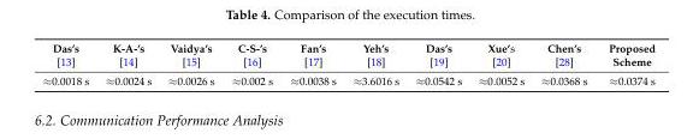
<table><thead><tr><td>Das’s [13]</td><td>K-A-’s [14]</td><td>Vaidya’s [15]</td><td>C-S-’s [16]</td><td>Fan’s [17]</td><td>Yeh’s [18]</td><td>Das’s [19]</td><td>Xue’s [20]</td><td>Chen’s [28]</td><td>Proposed Scheme</td></tr></thead><tbody><tr><td>≈0.0018 s</td><td>≈0.0024 s</td><td>≈0.0026 s</td><td>≈0.002 s</td><td>≈0.0038 s</td><td>≈3.6016 s</td><td>≈0.0542 s</td><td>≈0.0052 s</td><td>≈0.0368 s</td><td>≈0.0374 s</td></tr></tbody></table>